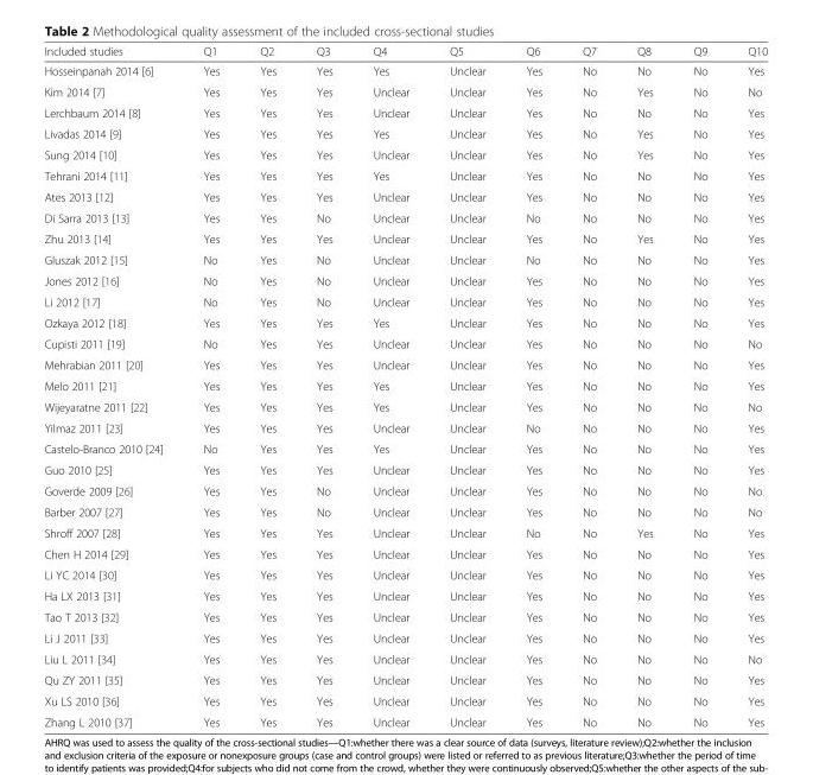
<table><thead><tr><td>Included studies</td><td>Q1</td><td>Q2</td><td>Q3</td><td>Q4</td><td>Q5</td><td>Q6</td><td>Q7</td><td>Q8</td><td>Q9</td><td>Q10</td></tr></thead><tbody><tr><td>Hosseinpanah 2014 [6]</td><td>Yes</td><td>Yes</td><td>Yes</td><td>Yes</td><td>Unclear</td><td>Yes</td><td>No</td><td>No</td><td>No</td><td>Yes</td></tr><tr><td>Kim 2014 [7]</td><td>Yes</td><td>Yes</td><td>Yes</td><td>Unclear</td><td>Unclear</td><td>Yes</td><td>No</td><td>Yes</td><td>No</td><td>No</td></tr><tr><td>Lerchbaum 2014 [8]</td><td>Yes</td><td>Yes</td><td>Yes</td><td>Unclear</td><td>Unclear</td><td>Yes</td><td>No</td><td>No</td><td>No</td><td>Yes</td></tr><tr><td>Livadas 2014 [9]</td><td>Yes</td><td>Yes</td><td>Yes</td><td>Yes</td><td>Unclear</td><td>Yes</td><td>No</td><td>Yes</td><td>No</td><td>Yes</td></tr><tr><td>Sung 2014 [10]</td><td>Yes</td><td>Yes</td><td>Yes</td><td>Unclear</td><td>Unclear</td><td>Yes</td><td>No</td><td>Yes</td><td>No</td><td>Yes</td></tr><tr><td>Tehrani 2014 [11]</td><td>Yes</td><td>Yes</td><td>Yes</td><td>Yes</td><td>Unclear</td><td>Yes</td><td>No</td><td>No</td><td>No</td><td>Yes</td></tr><tr><td>Ates 2013 [12]</td><td>Yes</td><td>Yes</td><td>Yes</td><td>Unclear</td><td>Unclear</td><td>Yes</td><td>No</td><td>No</td><td>No</td><td>Yes</td></tr><tr><td>Di Sarra 2013 [13]</td><td>Yes</td><td>Yes</td><td>No</td><td>Unclear</td><td>Unclear</td><td>No</td><td>No</td><td>No</td><td>No</td><td>Yes</td></tr><tr><td>Zhu 2013 [14]</td><td>Yes</td><td>Yes</td><td>Yes</td><td>Unclear</td><td>Unclear</td><td>Yes</td><td>No</td><td>Yes</td><td>No</td><td>Yes</td></tr><tr><td>Gluszak 2012 [15]</td><td>No</td><td>Yes</td><td>No</td><td>Unclear</td><td>Unclear</td><td>No</td><td>No</td><td>No</td><td>No</td><td>Yes</td></tr><tr><td>Jones 2012 [16]</td><td>No</td><td>Yes</td><td>No</td><td>Unclear</td><td>Unclear</td><td>Yes</td><td>No</td><td>No</td><td>No</td><td>Yes</td></tr><tr><td>Li 2012 [17]</td><td>No</td><td>Yes</td><td>No</td><td>Unclear</td><td>Unclear</td><td>Yes</td><td>No</td><td>No</td><td>No</td><td>Yes</td></tr><tr><td>Ozkaya 2012 [18]</td><td>Yes</td><td>Yes</td><td>Yes</td><td>Yes</td><td>Unclear</td><td>Yes</td><td>No</td><td>No</td><td>No</td><td>Yes</td></tr><tr><td>Cupisti 2011 [19]</td><td>No</td><td>Yes</td><td>Yes</td><td>Unclear</td><td>Unclear</td><td>Yes</td><td>No</td><td>No</td><td>No</td><td>No</td></tr><tr><td>Mehrabian 2011 [20]</td><td>Yes</td><td>Yes</td><td>Yes</td><td>Unclear</td><td>Unclear</td><td>Yes</td><td>No</td><td>No</td><td>No</td><td>Yes</td></tr><tr><td>Melo 2011 [21]</td><td>Yes</td><td>Yes</td><td>Yes</td><td>Yes</td><td>Unclear</td><td>Yes</td><td>No</td><td>No</td><td>No</td><td>Yes</td></tr><tr><td>Wijeyaratne 2011 [22]</td><td>Yes</td><td>Yes</td><td>Yes</td><td>Yes</td><td>Unclear</td><td>Yes</td><td>No</td><td>No</td><td>No</td><td>No</td></tr><tr><td>Yilmaz 2011 [23]</td><td>Yes</td><td>Yes</td><td>Yes</td><td>Unclear</td><td>Unclear</td><td>No</td><td>No</td><td>No</td><td>No</td><td>Yes</td></tr><tr><td>Castelo-Branco 2010 [24]</td><td>No</td><td>Yes</td><td>Yes</td><td>Yes</td><td>Unclear</td><td>Yes</td><td>No</td><td>No</td><td>No</td><td>Yes</td></tr><tr><td>Guo 2010 [25]</td><td>Yes</td><td>Yes</td><td>Yes</td><td>Unclear</td><td>Unclear</td><td>Yes</td><td>No</td><td>No</td><td>No</td><td>Yes</td></tr><tr><td>Goverde 2009 [26]</td><td>Yes</td><td>Yes</td><td>No</td><td>Unclear</td><td>Unclear</td><td>Yes</td><td>No</td><td>No</td><td>No</td><td>No</td></tr><tr><td>Barber 2007 [27]</td><td>Yes</td><td>Yes</td><td>No</td><td>Unclear</td><td>Unclear</td><td>Yes</td><td>No</td><td>No</td><td>No</td><td>No</td></tr><tr><td>Shroff 2007 [28]</td><td>Yes</td><td>Yes</td><td>Yes</td><td>Unclear</td><td>Unclear</td><td>No</td><td>No</td><td>Yes</td><td>No</td><td>Yes</td></tr><tr><td>Chen H 2014 [29]</td><td>Yes</td><td>Yes</td><td>Yes</td><td>Unclear</td><td>Unclear</td><td>Yes</td><td>No</td><td>No</td><td>No</td><td>Yes</td></tr><tr><td>Li YC 2014 [30]</td><td>Yes</td><td>Yes</td><td>Yes</td><td>Unclear</td><td>Unclear</td><td>Yes</td><td>No</td><td>No</td><td>No</td><td>Yes</td></tr><tr><td>Ha LX 2013 [31]</td><td>Yes</td><td>Yes</td><td>Yes</td><td>Unclear</td><td>Unclear</td><td>Yes</td><td>No</td><td>No</td><td>No</td><td>Yes</td></tr><tr><td>Tao T 2013 [32]</td><td>Yes</td><td>Yes</td><td>Yes</td><td>Unclear</td><td>Unclear</td><td>Yes</td><td>No</td><td>No</td><td>No</td><td>Yes</td></tr><tr><td>Li J 2011 [33]</td><td>Yes</td><td>Yes</td><td>Yes</td><td>Unclear</td><td>Unclear</td><td>Yes</td><td>No</td><td>No</td><td>No</td><td>Yes</td></tr><tr><td>Liu L 2011 [34]</td><td>Yes</td><td>Yes</td><td>Yes</td><td>Unclear</td><td>Unclear</td><td>Yes</td><td>No</td><td>No</td><td>No</td><td>No</td></tr><tr><td>Qu ZY 2011 [35]</td><td>Yes</td><td>Yes</td><td>Yes</td><td>Unclear</td><td>Unclear</td><td>Yes</td><td>No</td><td>No</td><td>No</td><td>Yes</td></tr><tr><td>Xu LS 2010 [36]</td><td>Yes</td><td>Yes</td><td>Yes</td><td>Unclear</td><td>Unclear</td><td>Yes</td><td>No</td><td>No</td><td>No</td><td>Yes</td></tr><tr><td>Zhang L 2010 [37]</td><td>Yes</td><td>Yes</td><td>Yes</td><td>Unclear</td><td>Unclear</td><td>Yes</td><td>No</td><td>No</td><td>No</td><td>Yes</td></tr></tbody></table>